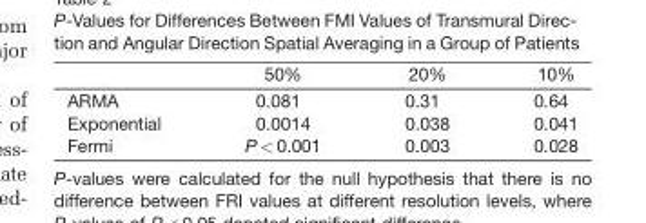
<table><thead><tr><td></td><td>50%</td><td>20%</td><td>10%</td></tr></thead><tbody><tr><td>ARMA</td><td>0.081</td><td>0.31</td><td>0.64</td></tr><tr><td>Exponential</td><td>0.0014</td><td>0.038</td><td>0.041</td></tr><tr><td>Fermi</td><td>P &lt; 0.001</td><td>0.003</td><td>0.028</td></tr></tbody></table>